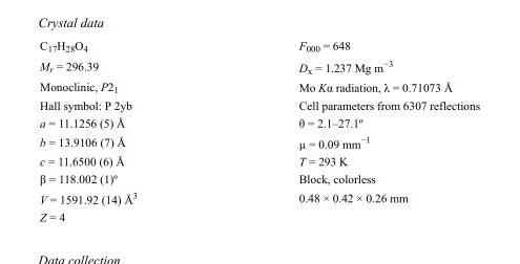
<table><tbody><tr><td>C<sub>17</sub>H<sub>28</sub>O<sub>4</sub></td><td>F000 = 648</td></tr><tr><td>M<sub>r</sub> = 296.39</td><td>D<sub>x</sub> = 1.237 Mg m<sup>−3</sup></td></tr><tr><td>Monoclinic, P2<sub>1</sub></td><td>Mo Kα radiation, λ = 0.71073 Å</td></tr><tr><td>Hall symbol: P 2yb</td><td>Cell parameters from 6307 reflections</td></tr><tr><td>a = 11.1256 (5) Å</td><td>θ = 2.1–27.1º</td></tr><tr><td>b = 13.9106 (7) Å</td><td>µ = 0.09 mm<sup>−1</sup></td></tr><tr><td>c = 11.6500 (6) Å</td><td>T = 293 K</td></tr><tr><td>β = 118.002 (1)º</td><td>Block, colorless</td></tr><tr><td>V = 1591.92 (14) Å<sup>3</sup></td><td>0.48 × 0.42 × 0.26 mm</td></tr><tr><td>Z = 4</td><td></td></tr></tbody></table>